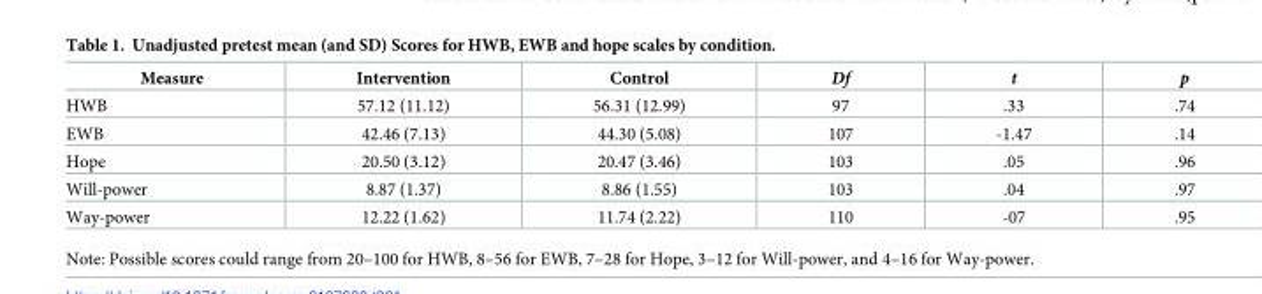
<table><thead><tr><td>Measure</td><td>Intervention</td><td>Control</td><td>Df</td><td>t</td><td>p</td></tr></thead><tbody><tr><td>HWB</td><td>57.12 (11.12)</td><td>56.31 (12.99)</td><td>97</td><td>.33</td><td>.74</td></tr><tr><td>EWB</td><td>42.46 (7.13)</td><td>44.30 (5.08)</td><td>107</td><td>-1.47</td><td>.14</td></tr><tr><td>Hope</td><td>20.50 (3.12)</td><td>20.47 (3.46)</td><td>103</td><td>.05</td><td>.96</td></tr><tr><td>Will-power</td><td>8.87 (1.37)</td><td>8.86 (1.55)</td><td>103</td><td>.04</td><td>.97</td></tr><tr><td>Way-power</td><td>12.22 (1.62)</td><td>11.74 (2.22)</td><td>110</td><td>-07</td><td>.95</td></tr></tbody></table>